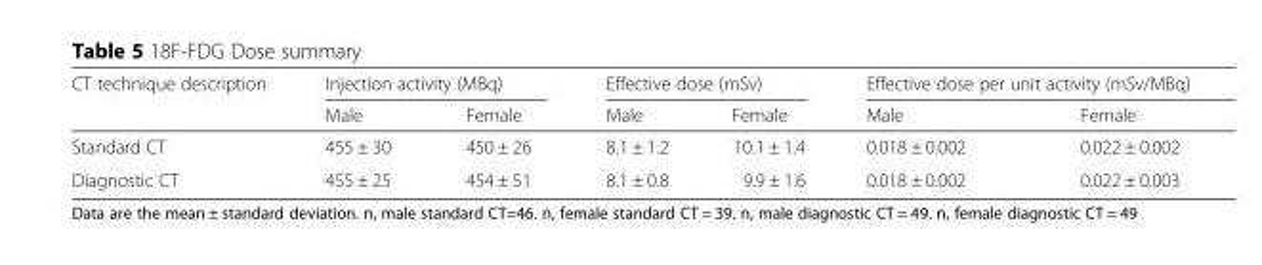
<table><thead><tr><td rowspan="2">CT technique description</td><td colspan="2">Injection activity (MBq)</td><td colspan="2">Effective dose (mSv)</td><td colspan="2">Effective dose per unit activity (mSv/MBq)</td></tr><tr><td>Male</td><td>Female</td><td>Male</td><td>Female</td><td>Male</td><td>Female</td></tr></thead><tbody><tr><td>Standard CT</td><td>455 ± 30</td><td>450 ± 26</td><td>8.1 ± 1.2</td><td>10.1 ± 1.4</td><td>0.018 ± 0.002</td><td>0.022 ± 0.002</td></tr><tr><td>Diagnostic CT</td><td>455 ± 25</td><td>454 ± 51</td><td>8.1 ± 0.8</td><td>9.9 ± 1.6</td><td>0.018 ± 0.002</td><td>0.022 ± 0.003</td></tr></tbody></table>